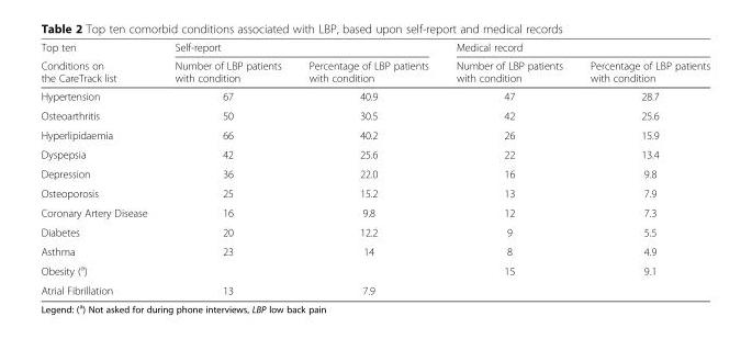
<table><thead><tr><td rowspan="2">Top ten Conditions on the CareTrack list</td><td colspan="2">Self-report</td><td colspan="2">Medical record</td></tr><tr><td>Number of LBP patients with condition</td><td>Percentage of LBP patients with condition</td><td>Number of LBP patients with condition</td><td>Percentage of LBP patients with condition</td></tr></thead><tbody><tr><td>Hypertension</td><td>67</td><td>40.9</td><td>47</td><td>28.7</td></tr><tr><td>Osteoarthritis</td><td>50</td><td>30.5</td><td>42</td><td>25.6</td></tr><tr><td>Hyperlipidaemia</td><td>66</td><td>40.2</td><td>26</td><td>15.9</td></tr><tr><td>Dyspepsia</td><td>42</td><td>25.6</td><td>22</td><td>13.4</td></tr><tr><td>Depression</td><td>36</td><td>22.0</td><td>16</td><td>9.8</td></tr><tr><td>Osteoporosis</td><td>25</td><td>15.2</td><td>13</td><td>7.9</td></tr><tr><td>Coronary Artery Disease</td><td>16</td><td>9.8</td><td>12</td><td>7.3</td></tr><tr><td>Diabetes</td><td>20</td><td>12.2</td><td>9</td><td>5.5</td></tr><tr><td>Asthma</td><td>23</td><td>14</td><td>8</td><td>4.9</td></tr><tr><td>Obesity (<sup>a</sup>)</td><td></td><td></td><td>15</td><td>9.1</td></tr><tr><td>Atrial Fibrillation</td><td>13</td><td>7.9</td><td></td><td></td></tr></tbody></table>